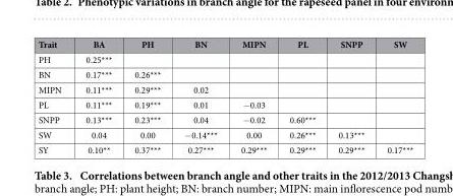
<table><thead><tr><td>Trait</td><td>BA</td><td>PH</td><td>BN</td><td>MIPN</td><td>PL</td><td>SNPP</td><td>SW</td></tr></thead><tbody><tr><td>PH</td><td>0.25***</td><td></td><td></td><td></td><td></td><td></td><td></td></tr><tr><td>BN</td><td>0.17***</td><td>0.26***</td><td></td><td></td><td></td><td></td><td></td></tr><tr><td>MIPN</td><td>0.11***</td><td>0.29***</td><td>0.02</td><td></td><td></td><td></td><td></td></tr><tr><td>PL</td><td>0.11***</td><td>0.19***</td><td>0.01</td><td>− 0.03</td><td></td><td></td><td></td></tr><tr><td>SNPP</td><td>0.13***</td><td>0.23***</td><td>0.04</td><td>− 0.02</td><td>0.60***</td><td></td><td></td></tr><tr><td>SW</td><td>0.04</td><td>0.00</td><td>− 0.14***</td><td>0.00</td><td>0.26***</td><td>0.13***</td><td></td></tr><tr><td>SY</td><td>0.10**</td><td>0.37***</td><td>0.27***</td><td>0.29***</td><td>0.29***</td><td>0.29***</td><td>0.17***</td></tr></tbody></table>